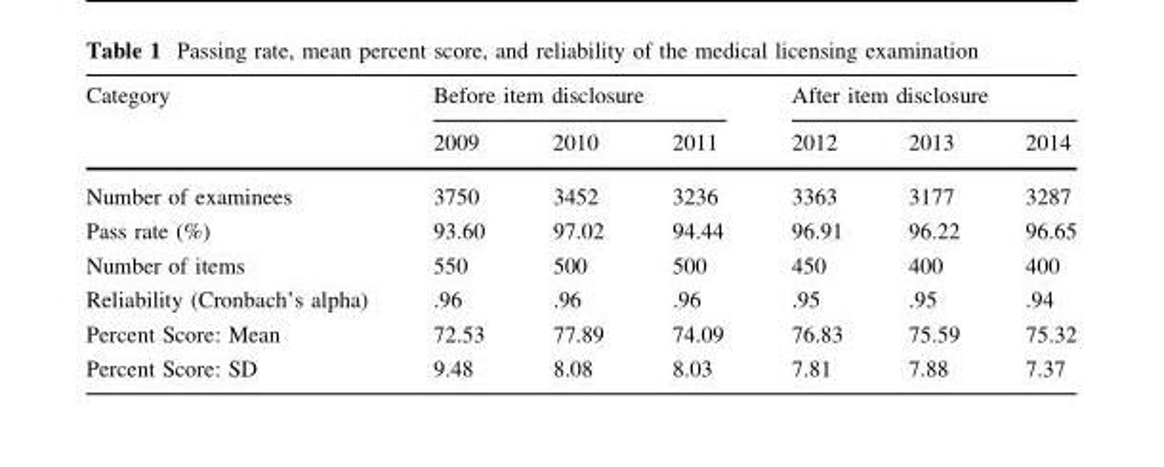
<table><thead><tr><td rowspan="2">Category</td><td colspan="3">Before item disclosure</td><td colspan="3">After item disclosure</td></tr><tr><td>2009</td><td>2010</td><td>2011</td><td>2012</td><td>2013</td><td>2014</td></tr></thead><tbody><tr><td>Number of examinees</td><td>3750</td><td>3452</td><td>3236</td><td>3363</td><td>3177</td><td>3287</td></tr><tr><td>Pass rate (%)</td><td>93.60</td><td>97.02</td><td>94.44</td><td>96.91</td><td>96.22</td><td>96.65</td></tr><tr><td>Number of items</td><td>550</td><td>500</td><td>500</td><td>450</td><td>400</td><td>400</td></tr><tr><td>Reliability (Cronbach’s alpha)</td><td>.96</td><td>.96</td><td>.96</td><td>.95</td><td>.95</td><td>.94</td></tr><tr><td>Percent Score: Mean</td><td>72.53</td><td>77.89</td><td>74.09</td><td>76.83</td><td>75.59</td><td>75.32</td></tr><tr><td>Percent Score: SD</td><td>9.48</td><td>8.08</td><td>8.03</td><td>7.81</td><td>7.88</td><td>7.37</td></tr></tbody></table>